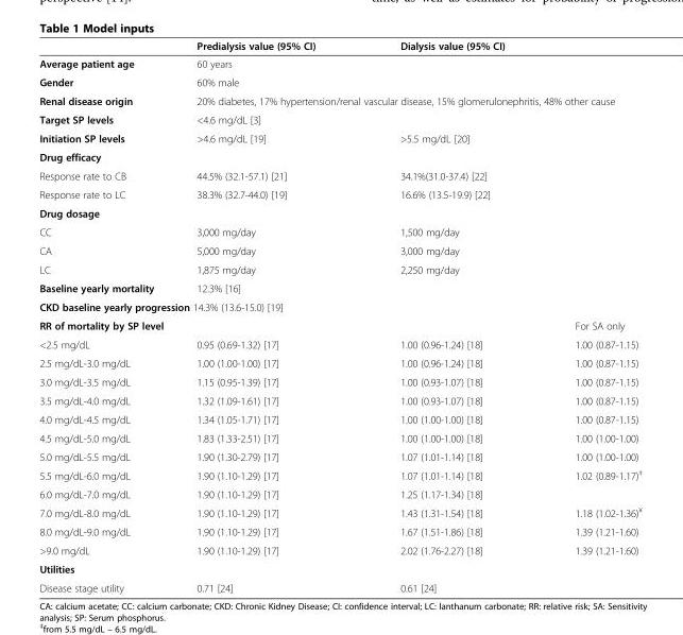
<table><thead><tr><td></td><td>Predialysis value (95% CI)</td><td colspan="2">Dialysis value (95% CI)</td></tr></thead><tbody><tr><td>Average patient age</td><td colspan="3">60 years</td></tr><tr><td>Gender</td><td colspan="3">60% male</td></tr><tr><td>Renal disease origin</td><td colspan="3">20% diabetes, 17% hypertension/renal vascular disease, 15% glomerulonephritis, 48% other cause</td></tr><tr><td>Target SP levels</td><td colspan="2">&lt;4.6 mg/dL [3]</td><td></td></tr><tr><td>Initiation SP levels</td><td>&gt;4.6 mg/dL [19]</td><td>&gt;5.5 mg/dL [20]</td><td></td></tr><tr><td colspan="4">Drug efficacy</td></tr><tr><td>Response rate to CB</td><td>44.5% (32.1-57.1) [21]</td><td>34.1%(31.0-37.4) [22]</td><td></td></tr><tr><td>Response rate to LC</td><td>38.3% (32.7-44.0) [19]</td><td>16.6% (13.5-19.9) [22]</td><td></td></tr><tr><td colspan="4">Drug dosage</td></tr><tr><td>CC</td><td>3,000 mg/day</td><td>1,500 mg/day</td><td></td></tr><tr><td>CA</td><td>5,000 mg/day</td><td>3,000 mg/day</td><td></td></tr><tr><td>LC</td><td>1,875 mg/day</td><td>2,250 mg/day</td><td></td></tr><tr><td>Baseline yearly mortality</td><td>12.3% [16]</td><td></td><td></td></tr><tr><td colspan="4">CKD baseline yearly progression 14.3% (13.6-15.0) [19]</td></tr><tr><td colspan="2">RR of mortality by SP level</td><td></td><td>For SA only</td></tr><tr><td>&lt;2.5 mg/dL</td><td>0.95 (0.69-1.32) [17]</td><td>1.00 (0.96-1.24) [18]</td><td>1.00 (0.87-1.15)</td></tr><tr><td>2.5 mg/dL-3.0 mg/dL</td><td>1.00 (1.00-1.00) [17]</td><td>1.00 (0.96-1.24) [18]</td><td>1.00 (0.87-1.15)</td></tr><tr><td>3.0 mg/dL-3.5 mg/dL</td><td>1.15 (0.95-1.39) [17]</td><td>1.00 (0.93-1.07) [18]</td><td>1.00 (0.87-1.15)</td></tr><tr><td>3.5 mg/dL-4.0 mg/dL</td><td>1.32 (1.09-1.61) [17]</td><td>1.00 (0.93-1.07) [18]</td><td>1.00 (0.87-1.15)</td></tr><tr><td>4.0 mg/dL-4.5 mg/dL</td><td>1.34 (1.05-1.71) [17]</td><td>1.00 (1.00-1.00) [18]</td><td>1.00 (0.87-1.15)</td></tr><tr><td>4.5 mg/dL-5.0 mg/dL</td><td>1.83 (1.33-2.51) [17]</td><td>1.00 (1.00-1.00) [18]</td><td>1.00 (1.00-1.00)</td></tr><tr><td>5.0 mg/dL-5.5 mg/dL</td><td>1.90 (1.30-2.79) [17]</td><td>1.07 (1.01-1.14) [18]</td><td>1.00 (1.00-1.00)</td></tr><tr><td>5.5 mg/dL-6.0 mg/dL</td><td>1.90 (1.10-1.29) [17]</td><td>1.07 (1.01-1.14) [18]</td><td>1.02 (0.89-1.17)<sup>‡</sup></td></tr><tr><td>6.0 mg/dL-7.0 mg/dL</td><td>1.90 (1.10-1.29) [17]</td><td>1.25 (1.17-1.34) [18]</td><td></td></tr><tr><td>7.0 mg/dL-8.0 mg/dL</td><td>1.90 (1.10-1.29) [17]</td><td>1.43 (1.31-1.54) [18]</td><td>1.18 (1.02-1.36)<sup>¥</sup></td></tr><tr><td>8.0 mg/dL-9.0 mg/dL</td><td>1.90 (1.10-1.29) [17]</td><td>1.67 (1.51-1.86) [18]</td><td>1.39 (1.21-1.60)</td></tr><tr><td>&gt;9.0 mg/dL</td><td>1.90 (1.10-1.29) [17]</td><td>2.02 (1.76-2.27) [18]</td><td>1.39 (1.21-1.60)</td></tr><tr><td colspan="4">Utilities</td></tr><tr><td>Disease stage utility</td><td>0.71 [24]</td><td>0.61 [24]</td><td></td></tr></tbody></table>